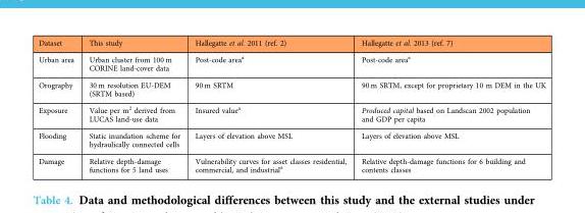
<table><thead><tr><td>Dataset</td><td>This study</td><td>Hallegatte et al. 2011 (ref. 2)</td><td>Hallegatte et al. 2013 (ref. 7)</td></tr></thead><tbody><tr><td>Urban area</td><td>Urban cluster from 100 m CORINE land-cover data</td><td>Post-code area<sup>a</sup></td><td>Post-code area<sup>a</sup></td></tr><tr><td>Orography</td><td>30 m resolution EU-DEM (SRTM based)</td><td>90 m SRTM</td><td>90 m SRTM, except for proprietary 10 m DEM in the UK</td></tr><tr><td>Exposure</td><td>Value per m<sup>2</sup> derived from LUCAS land-use data</td><td>Insured value<sup>a</sup></td><td>Produced capital based on Landscan 2002 population and GDP per capita</td></tr><tr><td>Flooding</td><td>Static inundation scheme for hydraulically connected cells</td><td>Layers of elevation above MSL</td><td>Layers of elevation above MSL</td></tr><tr><td>Damage</td><td>Relative depth-damage functions for 5 land uses</td><td>Vulnerability curves for asset classes residential, commercial, and industrial<sup>a</sup></td><td>Relative depth-damage functions for 6 building and contents classes</td></tr></tbody></table>